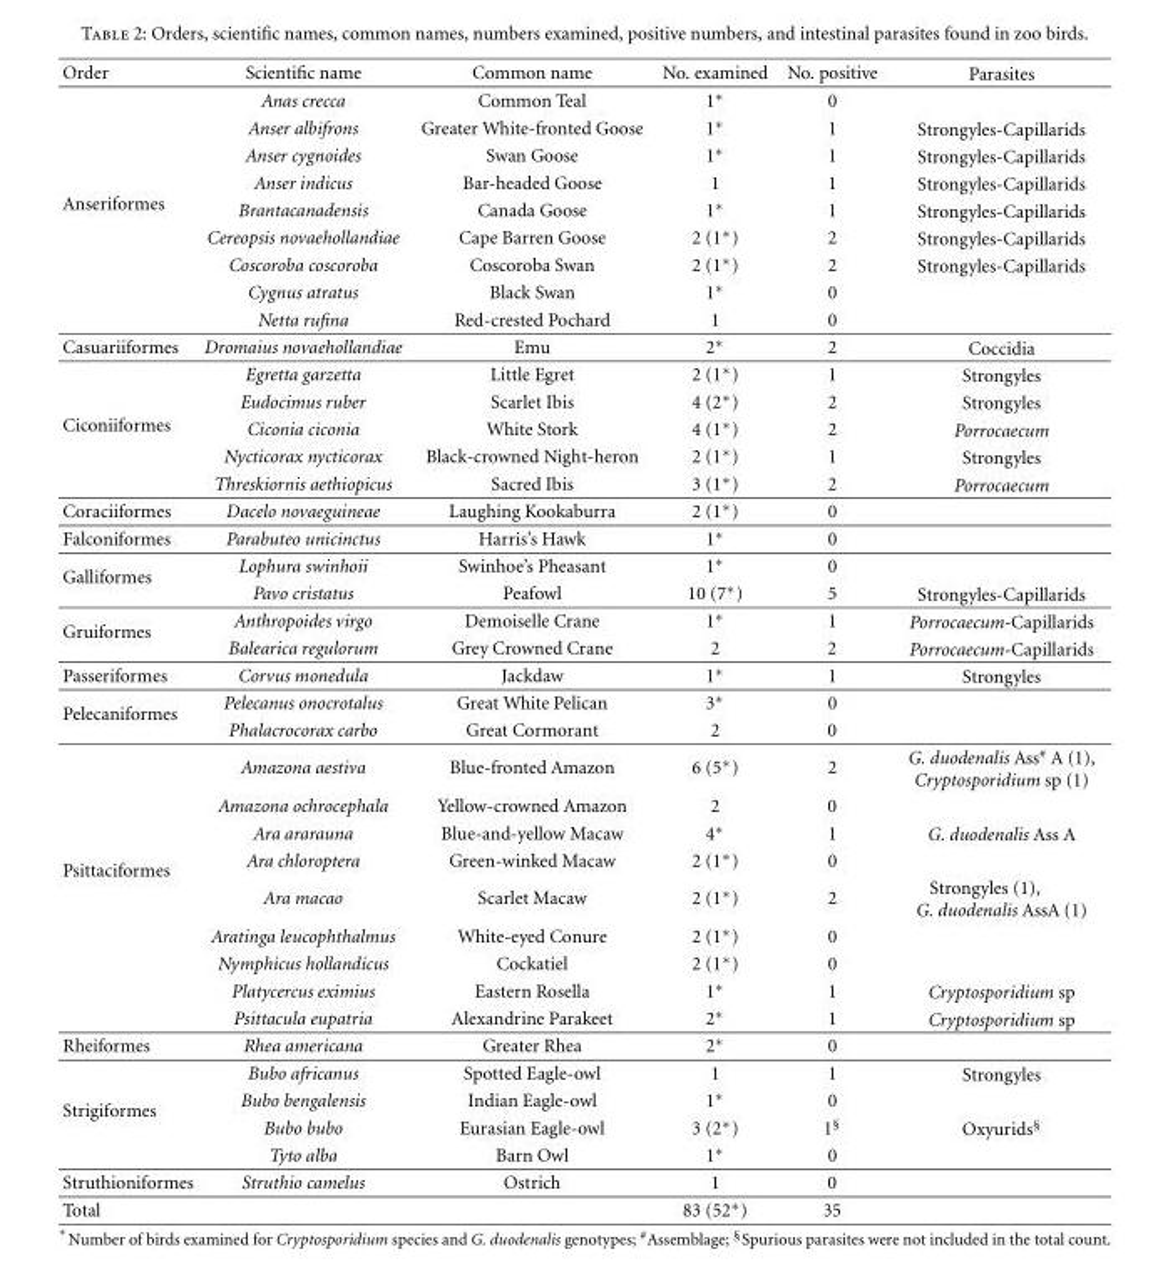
<table><thead><tr><td>Order</td><td>Scientific name</td><td>Common name</td><td>No. examined</td><td>No. positive</td><td>Parasites</td></tr></thead><tbody><tr><td rowspan="9">Anseriformes</td><td>Anas crecca</td><td>Common Teal</td><td>1∗</td><td>0</td><td></td></tr><tr><td>Anser albifrons</td><td>Greater White-fronted Goose</td><td>1∗</td><td>1</td><td>Strongyles-Capillarids</td></tr><tr><td>Anser cygnoides</td><td>Swan Goose</td><td>1∗</td><td>1</td><td>Strongyles-Capillarids</td></tr><tr><td>Anser indicus</td><td>Bar-headed Goose</td><td>1</td><td>1</td><td>Strongyles-Capillarids</td></tr><tr><td>Brantacanadensis</td><td>Canada Goose</td><td>1∗</td><td>1</td><td>Strongyles-Capillarids</td></tr><tr><td>Cereopsis novaehollandiae</td><td>Cape Barren Goose</td><td>2 (1∗)</td><td>2</td><td>Strongyles-Capillarids</td></tr><tr><td>Coscoroba coscoroba</td><td>Coscoroba Swan</td><td>2 (1∗)</td><td>2</td><td>Strongyles-Capillarids</td></tr><tr><td>Cygnus atratus</td><td>Black Swan</td><td>1∗</td><td>0</td><td></td></tr><tr><td>Netta rufina</td><td>Red-crested Pochard</td><td>1</td><td>0</td><td></td></tr><tr><td>Casuariiformes</td><td>Dromaius novaehollandiae</td><td>Emu</td><td>2∗</td><td>2</td><td>Coccidia</td></tr><tr><td rowspan="5">Ciconiiformes</td><td>Egretta garzetta</td><td>Little Egret</td><td>2 (1∗)</td><td>1</td><td>Strongyles</td></tr><tr><td>Eudocimus ruber</td><td>Scarlet Ibis</td><td>4 (2∗)</td><td>2</td><td>Strongyles</td></tr><tr><td>Ciconia ciconia</td><td>White Stork</td><td>4 (1∗)</td><td>2</td><td>Porrocaecum</td></tr><tr><td>Nycticorax nycticorax</td><td>Black-crowned Night-heron</td><td>2 (1∗)</td><td>1</td><td>Strongyles</td></tr><tr><td>Threskiornis aethiopicus</td><td>Sacred Ibis</td><td>3 (1∗)</td><td>2</td><td>Porrocaecum</td></tr><tr><td>Coraciiformes</td><td>Dacelo novaeguineae</td><td>Laughing Kookaburra</td><td>2 (1∗)</td><td>0</td><td></td></tr><tr><td>Falconiformes</td><td>Parabuteo unicinctus</td><td>Harris’s Hawk</td><td>1∗</td><td>0</td><td></td></tr><tr><td rowspan="2">Galliformes</td><td>Lophura swinhoii</td><td>Swinhoe’s Pheasant</td><td>1∗</td><td>0</td><td></td></tr><tr><td>Pavo cristatus</td><td>Peafowl</td><td>10 (7∗)</td><td>5</td><td>Strongyles-Capillarids</td></tr><tr><td rowspan="2">Gruiformes</td><td>Anthropoides virgo</td><td>Demoiselle Crane</td><td>1∗</td><td>1</td><td>Porrocaecum-Capillarids</td></tr><tr><td>Balearica regulorum</td><td>Grey Crowned Crane</td><td>2</td><td>2</td><td>Porrocaecum-Capillarids</td></tr><tr><td>Passeriformes</td><td>Corvus monedula</td><td>Jackdaw</td><td>1∗</td><td>1</td><td>Strongyles</td></tr><tr><td rowspan="2">Pelecaniformes</td><td>Pelecanus onocrotalus</td><td>Great White Pelican</td><td>3∗</td><td>0</td><td></td></tr><tr><td>Phalacrocorax carbo</td><td>Great Cormorant</td><td>2</td><td>0</td><td></td></tr><tr><td rowspan="9">Psittaciformes</td><td>Amazona aestiva</td><td>Blue-fronted Amazon</td><td>6 (5∗)</td><td>2</td><td>G. duodenalis Ass# A (1), Cryptosporidium sp (1)</td></tr><tr><td>Amazona ochrocephala</td><td>Yellow-crowned Amazon</td><td>2</td><td>0</td><td></td></tr><tr><td>Ara ararauna</td><td>Blue-and-yellow Macaw</td><td>4∗</td><td>1</td><td>G. duodenalis Ass A</td></tr><tr><td>Ara chloroptera</td><td>Green-winked Macaw</td><td>2 (1∗)</td><td>0</td><td></td></tr><tr><td>Ara macao</td><td>Scarlet Macaw</td><td>2 (1∗)</td><td>2</td><td>Strongyles (1), G. duodenalis AssA (1)</td></tr><tr><td>Aratinga leucophthalmus</td><td>White-eyed Conure</td><td>2 (1∗)</td><td>0</td><td></td></tr><tr><td>Nymphicus hollandicus</td><td>Cockatiel</td><td>2 (1∗)</td><td>0</td><td></td></tr><tr><td>Platycercus eximius</td><td>Eastern Rosella</td><td>1∗</td><td>1</td><td>Cryptosporidium sp</td></tr><tr><td>Psittacula eupatria</td><td>Alexandrine Parakeet</td><td>2∗</td><td>1</td><td>Cryptosporidium sp</td></tr><tr><td>Rheiformes</td><td>Rhea americana</td><td>Greater Rhea</td><td>2∗</td><td>0</td><td></td></tr><tr><td rowspan="4">Strigiformes</td><td>Bubo africanus</td><td>Spotted Eagle-owl</td><td>1</td><td>1</td><td>Strongyles</td></tr><tr><td>Bubo bengalensis</td><td>Indian Eagle-owl</td><td>1∗</td><td>0</td><td></td></tr><tr><td>Bubo bubo</td><td>Eurasian Eagle-owl</td><td>3 (2∗)</td><td>1§</td><td>Oxyurids§</td></tr><tr><td>Tyto alba</td><td>Barn Owl</td><td>1∗</td><td>0</td><td></td></tr><tr><td>Struthioniformes</td><td>Struthio camelus</td><td>Ostrich</td><td>1</td><td>0</td><td></td></tr><tr><td>Total</td><td></td><td></td><td>83 (52∗)</td><td>35</td><td></td></tr></tbody></table>